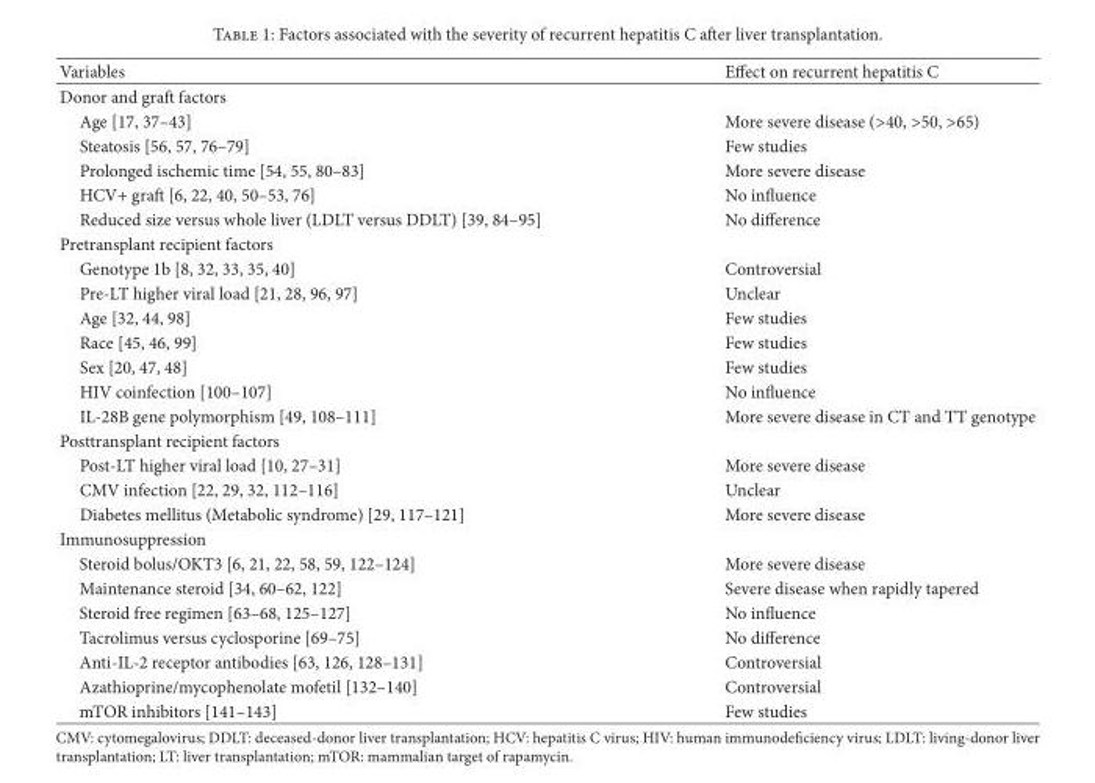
<table><thead><tr><td>Variables</td><td>Effect on recurrent hepatitis C</td></tr></thead><tbody><tr><td colspan="2">Donor and gra factors</td></tr><tr><td>Age [17, 37–43]</td><td>More severe disease (&gt;40, &gt;50, &gt;65)</td></tr><tr><td>Steatosis [56, 57, 76–79]</td><td>Few studies</td></tr><tr><td>Prolonged ischemic time [54, 55, 80–83]</td><td>More severe disease</td></tr><tr><td>HCV+ gra [6, 22, 40, 50–53, 76]</td><td>No in�uence</td></tr><tr><td>Reduced size versus whole liver (LDLT versus DDLT) [39, 84–95]</td><td>No difference</td></tr><tr><td colspan="2">Pretransplant recipient factors</td></tr><tr><td>Genotype 1b [8, 32, 33, 35, 40]</td><td>Controversial</td></tr><tr><td>Pre-LT higher viral load [21, 28, 96, 97]</td><td>Unclear</td></tr><tr><td>Age [32, 44, 98]</td><td>Few studies</td></tr><tr><td>Race [45, 46, 99]</td><td>Few studies</td></tr><tr><td>Sex [20, 47, 48]</td><td>Few studies</td></tr><tr><td>HIV coinfection [100–107]</td><td>No in�uence</td></tr><tr><td>IL-28B gene polymorphism [49, 108–111]</td><td>More severe disease in CT and TT genotype</td></tr><tr><td colspan="2">Posttransplant recipient factors</td></tr><tr><td>Post-LT higher viral load [10, 27–31]</td><td>More severe disease</td></tr><tr><td>CMV infection [22, 29, 32, 112–116]</td><td>Unclear</td></tr><tr><td>Diabetes mellitus (Metabolic syndrome) [29, 117–121]</td><td>More severe disease</td></tr><tr><td colspan="2">Immunosuppression</td></tr><tr><td>Steroid bolus/OKT3 [6, 21, 22, 58, 59, 122–124]</td><td>More severe disease</td></tr><tr><td>Maintenance steroid [34, 60–62, 122]</td><td>Severe disease when rapidly tapered</td></tr><tr><td>Steroid free regimen [63–68, 125–127]</td><td>No in�uence</td></tr><tr><td>Tacrolimus versus cyclosporine [69–75]</td><td>No difference</td></tr><tr><td>Anti-IL-2 receptor antibodies [63, 126, 128–131]</td><td>Controversial</td></tr><tr><td>Azathioprine/mycophenolate mofetil [132–140]</td><td>Controversial</td></tr><tr><td>mTOR inhibitors [141–143]</td><td>Few studies</td></tr></tbody></table>